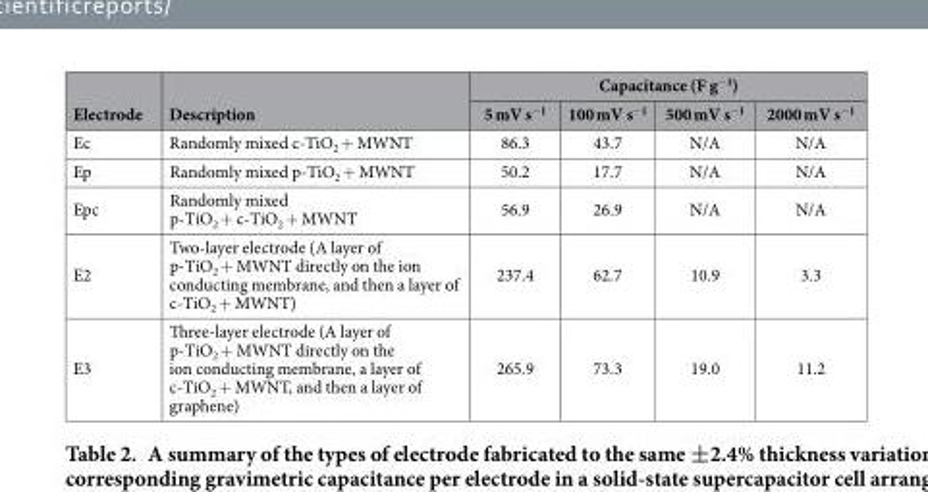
<table><thead><tr><td rowspan="2">Electrode</td><td rowspan="2">Description</td><td colspan="4">Capacitance (F g<sup>−1</sup>)</td></tr><tr><td>5 mV s<sup>−1</sup></td><td>100 mV s<sup>−1</sup></td><td>500 mV s<sup>−1</sup></td><td>2000 mV s<sup>−1</sup></td></tr></thead><tbody><tr><td>Ec</td><td>Randomly mixed c-TiO<sub>2</sub> + MWNT</td><td>86.3</td><td>43.7</td><td>N/A</td><td>N/A</td></tr><tr><td>Ep</td><td>Randomly mixed p-TiO<sub>2</sub> + MWNT</td><td>50.2</td><td>17.7</td><td>N/A</td><td>N/A</td></tr><tr><td>Epc</td><td>Randomly mixed p-TiO<sub>2</sub> + c-TiO<sub>2</sub> + MWNT</td><td>56.9</td><td>26.9</td><td>N/A</td><td>N/A</td></tr><tr><td>E2</td><td>Two-layer electrode (A layer of p-TiO<sub>2</sub> + MWNT directly on the ion conducting membrane, and then a layer of c-TiO<sub>2</sub> + MWNT)</td><td>237.4</td><td>62.7</td><td>10.9</td><td>3.3</td></tr><tr><td>E3</td><td>Three-layer electrode (A layer of p-TiO<sub>2</sub> + MWNT directly on the ion conducting membrane, a layer of c-TiO<sub>2</sub> + MWNT, and then a layer of graphene)</td><td>265.9</td><td>73.3</td><td>19.0</td><td>11.2</td></tr></tbody></table>